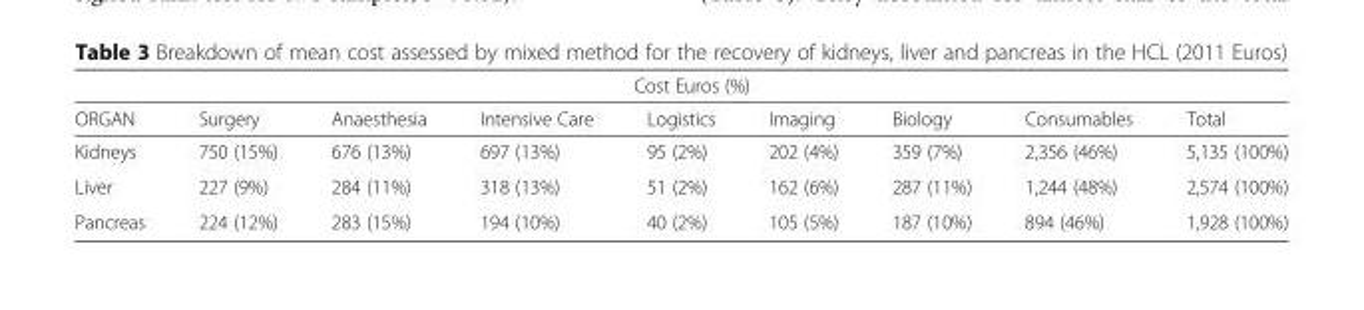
<table><thead><tr><td colspan="9">Cost Euros (%)</td></tr><tr><td>ORGAN</td><td>Surgery</td><td>Anaesthesia</td><td>Intensive Care</td><td>Logistics</td><td>Imaging</td><td>Biology</td><td>Consumables</td><td>Total</td></tr></thead><tbody><tr><td>Kidneys</td><td>750 (15%)</td><td>676 (13%)</td><td>697 (13%)</td><td>95 (2%)</td><td>202 (4%)</td><td>359 (7%)</td><td>2,356 (46%)</td><td>5,135 (100%)</td></tr><tr><td>Liver</td><td>227 (9%)</td><td>284 (11%)</td><td>318 (13%)</td><td>51 (2%)</td><td>162 (6%)</td><td>287 (11%)</td><td>1,244 (48%)</td><td>2,574 (100%)</td></tr><tr><td>Pancreas</td><td>224 (12%)</td><td>283 (15%)</td><td>194 (10%)</td><td>40 (2%)</td><td>105 (5%)</td><td>187 (10%)</td><td>894 (46%)</td><td>1,928 (100%)</td></tr></tbody></table>